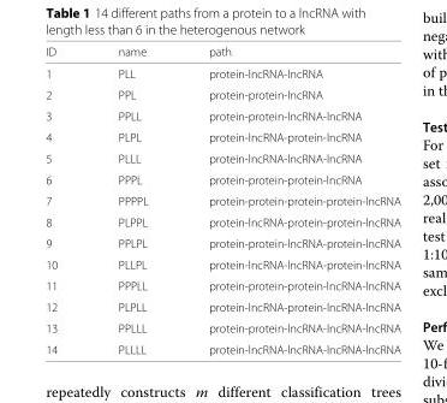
<table><thead><tr><td>ID</td><td>name</td><td>path</td></tr></thead><tbody><tr><td>1</td><td>PLL</td><td>protein-lncRNA-lncRNA</td></tr><tr><td>2</td><td>PPL</td><td>protein-protein-lncRNA</td></tr><tr><td>3</td><td>PPLL</td><td>protein-protein-lncRNA-lncRNA</td></tr><tr><td>4</td><td>PLPL</td><td>protein-lncRNA-protein-lncRNA</td></tr><tr><td>5</td><td>PLLL</td><td>protein-lncRNA-lncRNA-lncRNA</td></tr><tr><td>6</td><td>PPPL</td><td>protein-protein-protein-lncRNA</td></tr><tr><td>7</td><td>PPPPL</td><td>protein-protein-protein-protein-lncRNA</td></tr><tr><td>8</td><td>PLPPL</td><td>protein-lncRNA-protein-protein-lncRNA</td></tr><tr><td>9</td><td>PPLPL</td><td>protein-protein-lncRNA-protein-lncRNA</td></tr><tr><td>10</td><td>PLLPL</td><td>protein-lncRNA-lncRNA-protein-lncRNA</td></tr><tr><td>11</td><td>PPPLL</td><td>protein-protein-protein-lncRNA-lncRNA</td></tr><tr><td>12</td><td>PLPLL</td><td>protein-lncRNA-protein-lncRNA-lncRNA</td></tr><tr><td>13</td><td>PPLLL</td><td>protein-protein-lncRNA-lncRNA-lncRNA</td></tr><tr><td>14</td><td>PLLLL</td><td>protein-lncRNA-lncRNA-lncRNA-lncRNA</td></tr></tbody></table>